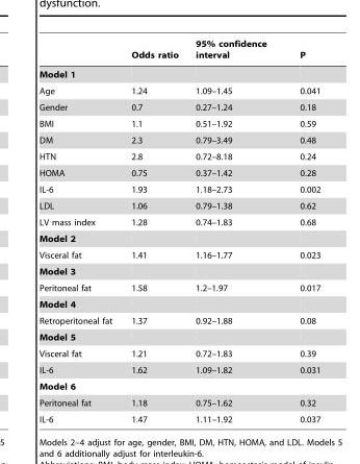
<table><thead><tr><td></td><td>Odds ratio</td><td>95% confidence interval</td><td>P</td></tr></thead><tbody><tr><td colspan="4">Model 1</td></tr><tr><td>Age</td><td>1.24</td><td>1.09–1.45</td><td>0.041</td></tr><tr><td>Gender</td><td>0.7</td><td>0.27–1.24</td><td>0.18</td></tr><tr><td>BMI</td><td>1.1</td><td>0.51–1.92</td><td>0.59</td></tr><tr><td>DM</td><td>2.3</td><td>0.79–3.49</td><td>0.48</td></tr><tr><td>HTN</td><td>2.8</td><td>0.72–8.18</td><td>0.24</td></tr><tr><td>HOMA</td><td>0.75</td><td>0.37–1.42</td><td>0.28</td></tr><tr><td>IL-6</td><td>1.93</td><td>1.18–2.73</td><td>0.002</td></tr><tr><td>LDL</td><td>1.06</td><td>0.79–1.38</td><td>0.62</td></tr><tr><td>LV mass index</td><td>1.28</td><td>0.74–1.83</td><td>0.68</td></tr><tr><td colspan="4">Model 2</td></tr><tr><td>Visceral fat</td><td>1.41</td><td>1.16–1.77</td><td>0.023</td></tr><tr><td colspan="4">Model 3</td></tr><tr><td>Peritoneal fat</td><td>1.58</td><td>1.2–1.97</td><td>0.017</td></tr><tr><td colspan="4">Model 4</td></tr><tr><td>Retroperitoneal fat</td><td>1.37</td><td>0.92–1.88</td><td>0.08</td></tr><tr><td colspan="4">Model 5</td></tr><tr><td>Visceral fat</td><td>1.21</td><td>0.72–1.83</td><td>0.39</td></tr><tr><td>IL-6</td><td>1.62</td><td>1.09–1.82</td><td>0.031</td></tr><tr><td colspan="4">Model 6</td></tr><tr><td>Peritoneal fat</td><td>1.18</td><td>0.75–1.62</td><td>0.32</td></tr><tr><td>IL-6</td><td>1.47</td><td>1.11–1.92</td><td>0.037</td></tr></tbody></table>